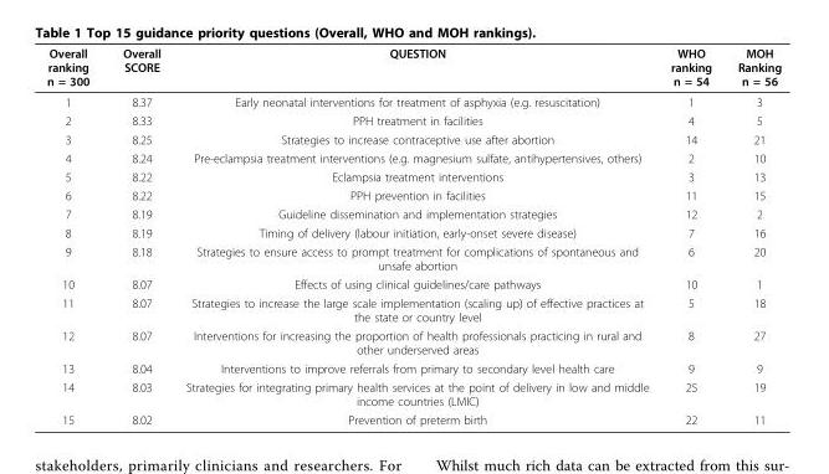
<table><thead><tr><td>Overall ranking n = 300</td><td>Overall SCORE</td><td>QUESTION</td><td>WHO ranking n = 54</td><td>MOH Ranking n = 56</td></tr></thead><tbody><tr><td>1</td><td>8.37</td><td>Early neonatal interventions for treatment of asphyxia (e.g. resuscitation)</td><td>1</td><td>3</td></tr><tr><td>2</td><td>8.33</td><td>PPH treatment in facilities</td><td>4</td><td>5</td></tr><tr><td>3</td><td>8.25</td><td>Strategies to increase contraceptive use after abortion</td><td>14</td><td>21</td></tr><tr><td>4</td><td>8.24</td><td>Pre-eclampsia treatment interventions (e.g. magnesium sulfate, antihypertensives, others)</td><td>2</td><td>10</td></tr><tr><td>5</td><td>8.22</td><td>Eclampsia treatment interventions</td><td>3</td><td>13</td></tr><tr><td>6</td><td>8.22</td><td>PPH prevention in facilities</td><td>11</td><td>15</td></tr><tr><td>7</td><td>8.19</td><td>Guideline dissemination and implementation strategies</td><td>12</td><td>2</td></tr><tr><td>8</td><td>8.19</td><td>Timing of delivery (labour initiation, early-onset severe disease)</td><td>7</td><td>16</td></tr><tr><td>9</td><td>8.18</td><td>Strategies to ensure access to prompt treatment for complications of spontaneous and unsafe abortion</td><td>6</td><td>20</td></tr><tr><td>10</td><td>8.07</td><td>Effects of using clinical guidelines/care pathways</td><td>10</td><td>1</td></tr><tr><td>11</td><td>8.07</td><td>Strategies to increase the large scale implementation (scaling up) of effective practices at the state or country level</td><td>5</td><td>18</td></tr><tr><td>12</td><td>8.07</td><td>Interventions for increasing the proportion of health professionals practicing in rural and other underserved areas</td><td>8</td><td>27</td></tr><tr><td>13</td><td>8.04</td><td>Interventions to improve referrals from primary to secondary level health care</td><td>9</td><td>9</td></tr><tr><td>14</td><td>8.03</td><td>Strategies for integrating primary health services at the point of delivery in low and middle income countries (LMIC)</td><td>25</td><td>19</td></tr><tr><td>15</td><td>8.02</td><td>Prevention of preterm birth</td><td>22</td><td>11</td></tr></tbody></table>